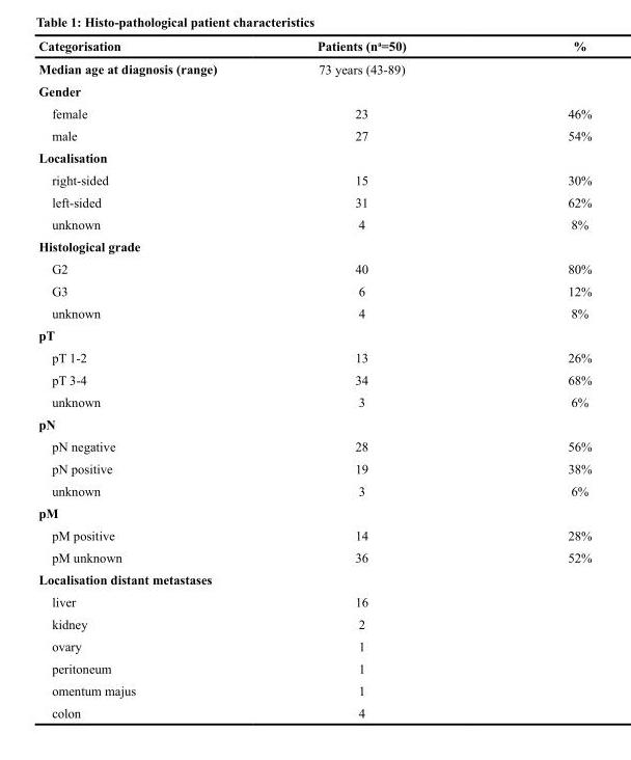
<table><thead><tr><td>Categorisation</td><td>Patients (n<sup>a</sup>=50)</td><td>%</td></tr></thead><tbody><tr><td>Median age at diagnosis (range)</td><td>73 years (43-89)</td><td></td></tr><tr><td colspan="3">Gender</td></tr><tr><td>female</td><td>23</td><td>46%</td></tr><tr><td>male</td><td>27</td><td>54%</td></tr><tr><td colspan="3">Localisation</td></tr><tr><td>right-sided</td><td>15</td><td>30%</td></tr><tr><td>left-sided</td><td>31</td><td>62%</td></tr><tr><td>unknown</td><td>4</td><td>8%</td></tr><tr><td colspan="3">Histological grade</td></tr><tr><td>G2</td><td>40</td><td>80%</td></tr><tr><td>G3</td><td>6</td><td>12%</td></tr><tr><td>unknown</td><td>4</td><td>8%</td></tr><tr><td colspan="3">pT</td></tr><tr><td>pT 1-2</td><td>13</td><td>26%</td></tr><tr><td>pT 3-4</td><td>34</td><td>68%</td></tr><tr><td>unknown</td><td>3</td><td>6%</td></tr><tr><td colspan="3">pN</td></tr><tr><td>pN negative</td><td>28</td><td>56%</td></tr><tr><td>pN positive</td><td>19</td><td>38%</td></tr><tr><td>unknown</td><td>3</td><td>6%</td></tr><tr><td colspan="3">pM</td></tr><tr><td>pM positive</td><td>14</td><td>28%</td></tr><tr><td>pM unknown</td><td>36</td><td>52%</td></tr><tr><td colspan="3">Localisation distant metastases</td></tr><tr><td>liver</td><td>16</td><td></td></tr><tr><td>kidney</td><td>2</td><td></td></tr><tr><td>ovary</td><td>1</td><td></td></tr><tr><td>peritoneum</td><td>1</td><td></td></tr><tr><td>omentum majus</td><td>1</td><td></td></tr><tr><td>colon</td><td>4</td><td></td></tr></tbody></table>